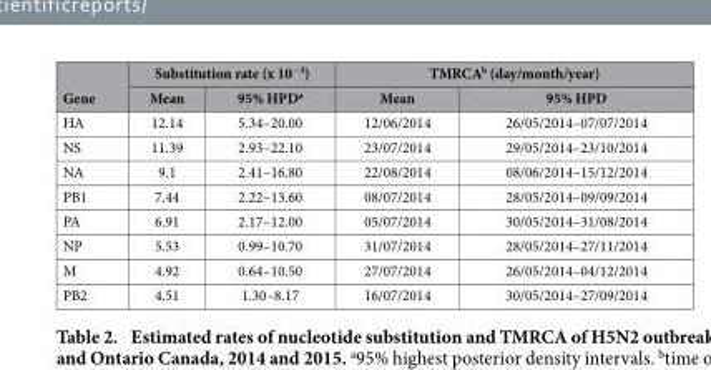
<table><thead><tr><td rowspan="2">Gene</td><td colspan="2">Substitution rate (x 10<sup>−3</sup>)</td><td colspan="2">TMRCA<sup>b</sup> (day/month/year)</td></tr><tr><td>Mean</td><td>95% HPD<sup>a</sup></td><td>Mean</td><td>95% HPD</td></tr></thead><tbody><tr><td>HA</td><td>12.14</td><td>5.34–20.00</td><td>12/06/2014</td><td>26/05/2014–07/07/2014</td></tr><tr><td>NS</td><td>11.39</td><td>2.93–22.10</td><td>23/07/2014</td><td>29/05/2014–23/10/2014</td></tr><tr><td>NA</td><td>9.1</td><td>2.41–16.80</td><td>22/08/2014</td><td>08/06/2014–15/12/2014</td></tr><tr><td>PB1</td><td>7.44</td><td>2.22–13.60</td><td>08/07/2014</td><td>28/05/2014–09/09/2014</td></tr><tr><td>PA</td><td>6.91</td><td>2.17–12.00</td><td>05/07/2014</td><td>30/05/2014–31/08/2014</td></tr><tr><td>NP</td><td>5.53</td><td>0.99–10.70</td><td>31/07/2014</td><td>28/05/2014–27/11/2014</td></tr><tr><td>M</td><td>4.92</td><td>0.64–10.50</td><td>27/07/2014</td><td>26/05/2014–04/12/2014</td></tr><tr><td>PB2</td><td>4.51</td><td>1.30–8.17</td><td>16/07/2014</td><td>30/05/2014–27/09/2014</td></tr></tbody></table>